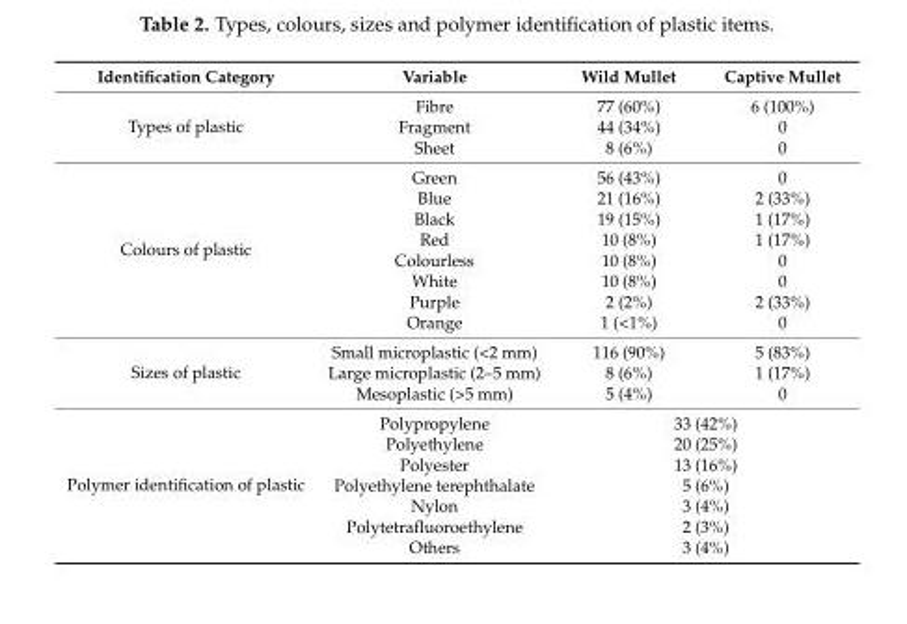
<table><thead><tr><td>Identification Category</td><td>Variable</td><td>Wild Mullet</td><td>Captive Mullet</td></tr></thead><tbody><tr><td rowspan="3">Types of plastic</td><td>Fibre</td><td>77 (60%)</td><td>6 (100%)</td></tr><tr><td>Fragment</td><td>44 (34%)</td><td>0</td></tr><tr><td>Sheet</td><td>8 (6%)</td><td>0</td></tr><tr><td rowspan="8">Colours of plastic</td><td>Green</td><td>56 (43%)</td><td>0</td></tr><tr><td>Blue</td><td>21 (16%)</td><td>2 (33%)</td></tr><tr><td>Black</td><td>19 (15%)</td><td>1 (17%)</td></tr><tr><td>Red</td><td>10 (8%)</td><td>1 (17%)</td></tr><tr><td>Colourless</td><td>10 (8%)</td><td>0</td></tr><tr><td>White</td><td>10 (8%)</td><td>0</td></tr><tr><td>Purple</td><td>2 (2%)</td><td>2 (33%)</td></tr><tr><td>Orange</td><td>1 (&lt;1%)</td><td>0</td></tr><tr><td rowspan="3">Sizes of plastic</td><td>Small microplastic (&lt;2 mm)</td><td>116 (90%)</td><td>5 (83%)</td></tr><tr><td>Large microplastic (2–5 mm)</td><td>8 (6%)</td><td>1 (17%)</td></tr><tr><td>Mesoplastic (&gt;5 mm)</td><td>5 (4%)</td><td>0</td></tr><tr><td rowspan="7">Polymer identification of plastic</td><td>Polypropylene</td><td colspan="2">33 (42%)</td></tr><tr><td>Polyethylene</td><td colspan="2">20 (25%)</td></tr><tr><td>Polyester</td><td colspan="2">13 (16%)</td></tr><tr><td>Polyethylene terephthalate</td><td colspan="2">5 (6%)</td></tr><tr><td>Nylon</td><td colspan="2">3 (4%)</td></tr><tr><td>Polytetrafluoroethylene</td><td colspan="2">2 (3%)</td></tr><tr><td>Others</td><td colspan="2">3 (4%)</td></tr></tbody></table>